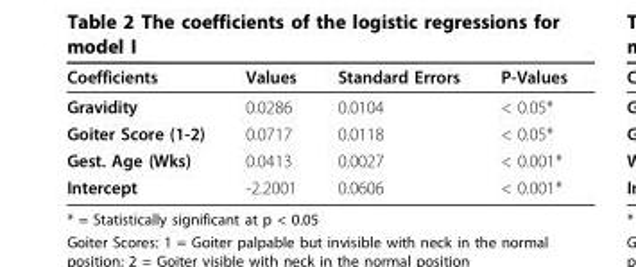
<table><thead><tr><td>Coefficients</td><td>Values</td><td>Standard Errors</td><td>P-Values</td></tr></thead><tbody><tr><td>Gravidity</td><td>0.0286</td><td>0.0104</td><td>&lt; 0.05*</td></tr><tr><td>Goiter Score (1-2)</td><td>0.0717</td><td>0.0118</td><td>&lt; 0.05*</td></tr><tr><td>Gest. Age (Wks)</td><td>0.0413</td><td>0.0027</td><td>&lt; 0.001*</td></tr><tr><td>Intercept</td><td>-2.2001</td><td>0.0606</td><td>&lt; 0.001*</td></tr></tbody></table>